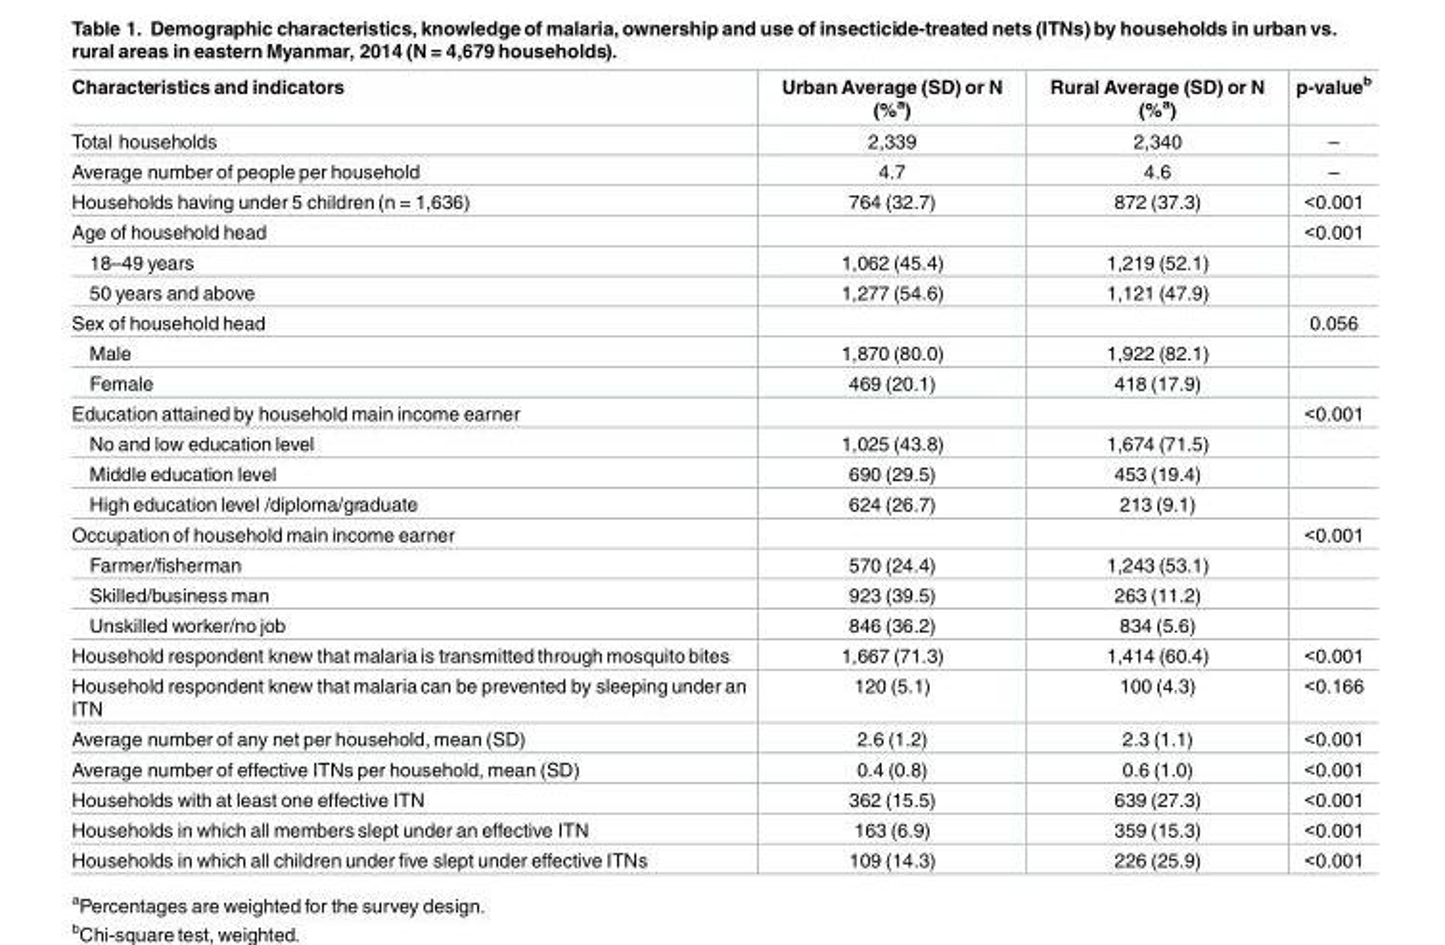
<table><thead><tr><td>Characteristics and indicators</td><td>Urban Average (SD) or N (%<sup>a</sup>)</td><td>Rural Average (SD) or N (%<sup>a</sup>)</td><td>p-value<sup>b</sup></td></tr></thead><tbody><tr><td>Total households</td><td>2,339</td><td>2,340</td><td>–</td></tr><tr><td>Average number of people per household</td><td>4.7</td><td>4.6</td><td>–</td></tr><tr><td>Households having under 5 children (n = 1,636)</td><td>764 (32.7)</td><td>872 (37.3)</td><td>&lt;0.001</td></tr><tr><td>Age of household head</td><td></td><td></td><td>&lt;0.001</td></tr><tr><td>18–49 years</td><td>1,062 (45.4)</td><td>1,219 (52.1)</td><td></td></tr><tr><td>50 years and above</td><td>1,277 (54.6)</td><td>1,121 (47.9)</td><td></td></tr><tr><td>Sex of household head</td><td></td><td></td><td>0.056</td></tr><tr><td>Male</td><td>1,870 (80.0)</td><td>1,922 (82.1)</td><td></td></tr><tr><td>Female</td><td>469 (20.1)</td><td>418 (17.9)</td><td></td></tr><tr><td>Education attained by household main income earner</td><td></td><td></td><td>&lt;0.001</td></tr><tr><td>No and low education level</td><td>1,025 (43.8)</td><td>1,674 (71.5)</td><td></td></tr><tr><td>Middle education level</td><td>690 (29.5)</td><td>453 (19.4)</td><td></td></tr><tr><td>High education level /diploma/graduate</td><td>624 (26.7)</td><td>213 (9.1)</td><td></td></tr><tr><td>Occupation of household main income earner</td><td></td><td></td><td>&lt;0.001</td></tr><tr><td>Farmer/fisherman</td><td>570 (24.4)</td><td>1,243 (53.1)</td><td></td></tr><tr><td>Skilled/business man</td><td>923 (39.5)</td><td>263 (11.2)</td><td></td></tr><tr><td>Unskilled worker/no job</td><td>846 (36.2)</td><td>834 (5.6)</td><td></td></tr><tr><td>Household respondent knew that malaria is transmitted through mosquito bites</td><td>1,667 (71.3)</td><td>1,414 (60.4)</td><td>&lt;0.001</td></tr><tr><td>Household respondent knew that malaria can be prevented by sleeping under an ITN</td><td>120 (5.1)</td><td>100 (4.3)</td><td>&lt;0.166</td></tr><tr><td>Average number of any net per household, mean (SD)</td><td>2.6 (1.2)</td><td>2.3 (1.1)</td><td>&lt;0.001</td></tr><tr><td>Average number of effective ITNs per household, mean (SD)</td><td>0.4 (0.8)</td><td>0.6 (1.0)</td><td>&lt;0.001</td></tr><tr><td>Households with at least one effective ITN</td><td>362 (15.5)</td><td>639 (27.3)</td><td>&lt;0.001</td></tr><tr><td>Households in which all members slept under an effective ITN</td><td>163 (6.9)</td><td>359 (15.3)</td><td>&lt;0.001</td></tr><tr><td>Households in which all children under five slept under effective ITNs</td><td>109 (14.3)</td><td>226 (25.9)</td><td>&lt;0.001</td></tr></tbody></table>